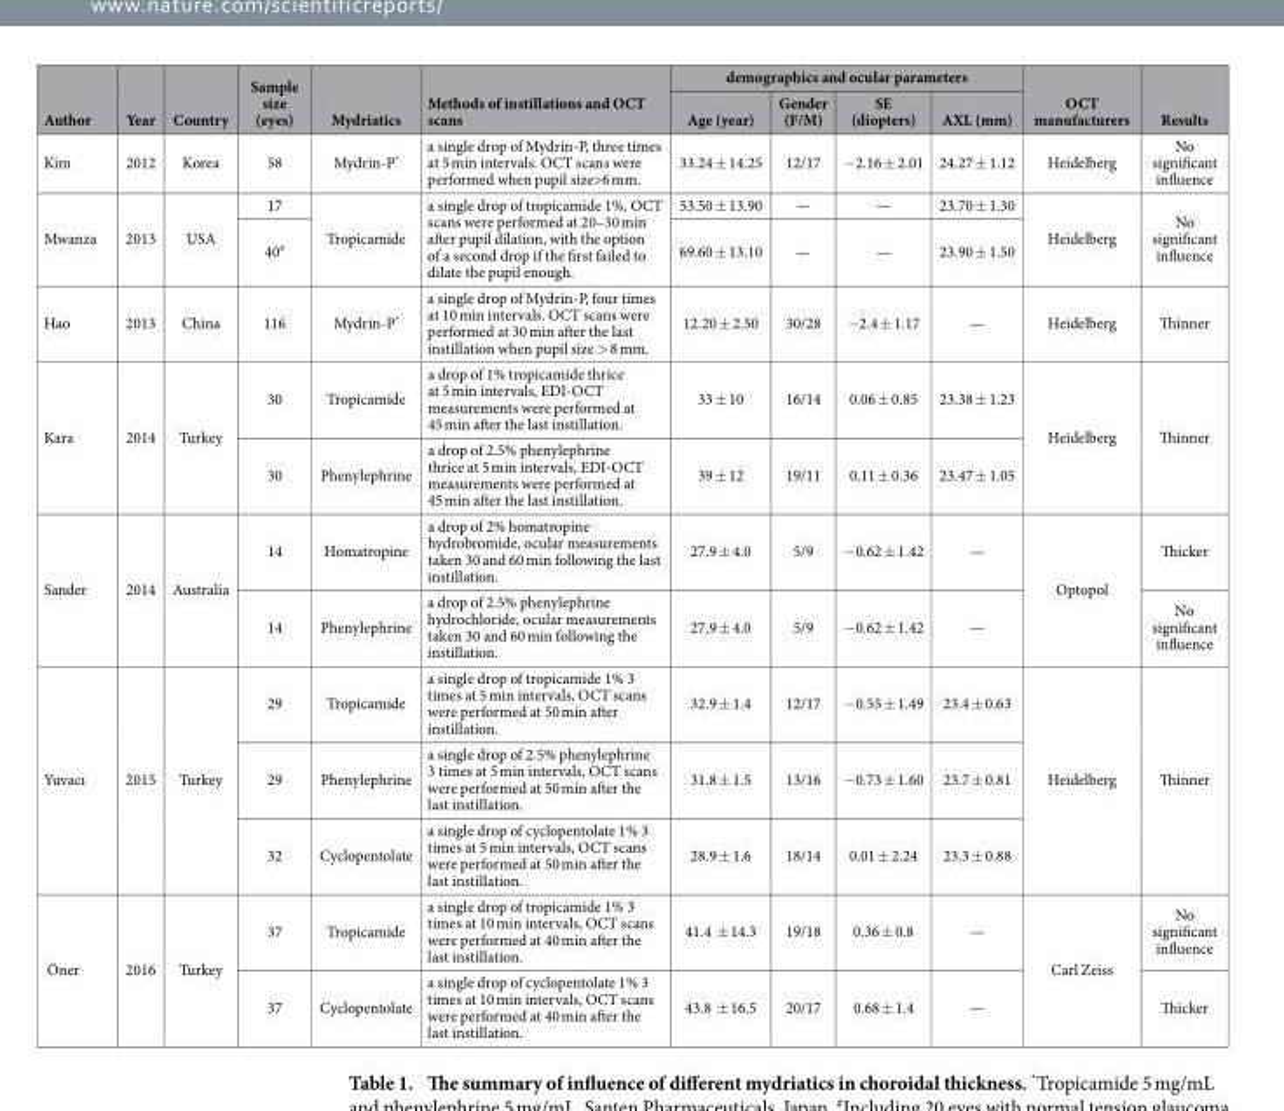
<table><thead><tr><td rowspan="2">Author</td><td rowspan="2">Year</td><td rowspan="2">Country</td><td rowspan="2">Sample size (eyes)</td><td rowspan="2">Mydriatics</td><td rowspan="2">Methods of instillations and OCT scans</td><td colspan="4">demographics and ocular parameters</td><td rowspan="2">OCT manufacturers</td><td rowspan="2">Results</td></tr><tr><td>Age (year)</td><td>Gender (F/M)</td><td>SE (diopters)</td><td>AXL (mm)</td></tr></thead><tbody><tr><td>Kim</td><td>2012</td><td>Korea</td><td>58</td><td>Mydrin-P*</td><td>a single drop of Mydrin-P, three times at 5 min intervals. OCT scans were performed when pupil size&gt;6 mm.</td><td>33.24 ± 14.25</td><td>12/17</td><td>− 2.16 ± 2.01</td><td>24.27 ± 1.12</td><td>Heidelberg</td><td>No significant influence</td></tr><tr><td rowspan="2">Mwanza</td><td rowspan="2">2013</td><td rowspan="2">USA</td><td>17</td><td rowspan="2">Tropicamide</td><td rowspan="2">a single drop of tropicamide 1%, OCT scans were performed at 20–30 min after pupil dilation, with the option of a second drop if the first failed to dilate the pupil enough.</td><td>53.50 ± 13.90</td><td>—</td><td>—</td><td>23.70 ± 1.30</td><td rowspan="2">Heidelberg</td><td rowspan="2">No significant influence</td></tr><tr><td>40#</td><td>69.60 ± 13.10</td><td>—</td><td>—</td><td>23.90 ± 1.50</td></tr><tr><td>Hao</td><td>2013</td><td>China</td><td>116</td><td>Mydrin-P*</td><td>a single drop of Mydrin-P, four times at 10 min intervals. OCT scans were performed at 30 min after the last instillation when pupil size &gt; 8 mm.</td><td>12.20 ± 2.50</td><td>30/28</td><td>− 2.4 ± 1.17</td><td>—</td><td>Heidelberg</td><td>Thinner</td></tr><tr><td rowspan="2">Kara</td><td rowspan="2">2014</td><td rowspan="2">Turkey</td><td>30</td><td>Tropicamide</td><td>a drop of 1% tropicamide thrice at 5 min intervals, EDI-OCT measurements were performed at 45 min after the last instillation.</td><td>33 ± 10</td><td>16/14</td><td>0.06 ± 0.85</td><td>23.38 ± 1.23</td><td rowspan="2">Heidelberg</td><td rowspan="2">Thinner</td></tr><tr><td>30</td><td>Phenylephrine</td><td>a drop of 2.5% phenylephrine thrice at 5 min intervals, EDI-OCT measurements were performed at 45 min after the last instillation.</td><td>39 ± 12</td><td>19/11</td><td>0.11 ± 0.36</td><td>23.47 ± 1.05</td></tr><tr><td rowspan="2">Sander</td><td rowspan="2">2014</td><td rowspan="2">Australia</td><td>14</td><td>Homatropine</td><td>a drop of 2% homatropine hydrobromide, ocular measurements taken 30 and 60 min following the last instillation.</td><td>27.9 ± 4.0</td><td>5/9</td><td>− 0.62 ± 1.42</td><td>—</td><td rowspan="2">Optopol</td><td>Thicker</td></tr><tr><td>14</td><td>Phenylephrine</td><td>a drop of 2.5% phenylephrine hydrochloride, ocular measurements taken 30 and 60 min following the instillation.</td><td>27.9 ± 4.0</td><td>5/9</td><td>− 0.62 ± 1.42</td><td>—</td><td>No significant influence</td></tr><tr><td rowspan="3">Yuvacı</td><td rowspan="3">2015</td><td rowspan="3">Turkey</td><td>29</td><td>Tropicamide</td><td>a single drop of tropicamide 1% 3 times at 5 min intervals, OCT scans were performed at 50 min after instillation.</td><td>32.9 ± 1.4</td><td>12/17</td><td>− 0.55 ± 1.49</td><td>23.4 ± 0.63</td><td rowspan="3">Heidelberg</td><td rowspan="3">Thinner</td></tr><tr><td>29</td><td>Phenylephrine</td><td>a single drop of 2.5% phenylephrine 3 times at 5 min intervals, OCT scans were performed at 50 min after the last instillation.</td><td>31.8 ± 1.5</td><td>13/16</td><td>− 0.73 ± 1.60</td><td>23.7 ± 0.81</td></tr><tr><td>32</td><td>Cyclopentolate</td><td>a single drop of cyclopentolate 1% 3 times at 5 min intervals, OCT scans were performed at 50 min after the last instillation.</td><td>28.9 ± 1.6</td><td>18/14</td><td>0.01 ± 2.24</td><td>23.3 ± 0.88</td></tr><tr><td rowspan="2">Öner</td><td rowspan="2">2016</td><td rowspan="2">Turkey</td><td>37</td><td>Tropicamide</td><td>a single drop of tropicamide 1% 3 times at 10 min intervals, OCT scans were performed at 40 min after the last instillation.</td><td>41.4 ± 14.3</td><td>19/18</td><td>0.36 ± 0.8</td><td>—</td><td rowspan="2">Carl Zeiss</td><td>No significant influence</td></tr><tr><td>37</td><td>Cyclopentolate</td><td>a single drop of cyclopentolate 1% 3 times at 10 min intervals, OCT scans were performed at 40 min after the last instillation.</td><td>43.8 ± 16.5</td><td>20/17</td><td>0.68 ± 1.4</td><td>—</td><td>Thicker</td></tr></tbody></table>